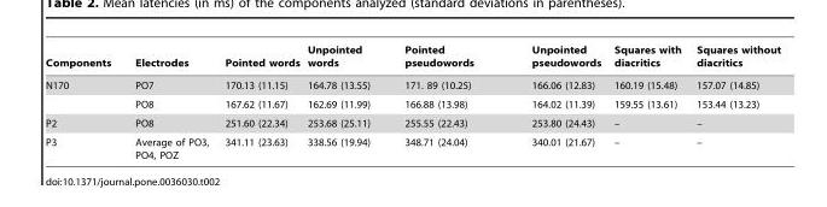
<table><thead><tr><td>Components</td><td>Electrodes</td><td>Pointed words</td><td>Unpointed words</td><td>Pointed pseudowords</td><td>Unpointed pseudowords</td><td>Squares with diacritics</td><td>Squares without diacritics</td></tr></thead><tbody><tr><td rowspan="2">N170</td><td>PO7</td><td>170.13 (11.15)</td><td>164.78 (13.55)</td><td>171. 89 (10.25)</td><td>166.06 (12.83)</td><td>160.19 (15.48)</td><td>157.07 (14.85)</td></tr><tr><td>PO8</td><td>167.62 (11.67)</td><td>162.69 (11.99)</td><td>166.88 (13.98)</td><td>164.02 (11.39)</td><td>159.55 (13.61)</td><td>153.44 (13.23)</td></tr><tr><td>P2</td><td>PO8</td><td>251.60 (22.34)</td><td>253.68 (25.11)</td><td>255.55 (22.43)</td><td>253.80 (24.43)</td><td>–</td><td>–</td></tr><tr><td>P3</td><td>Average of PO3, PO4, POZ</td><td>341.11 (23.63)</td><td>338.56 (19.94)</td><td>348.71 (24.04)</td><td>340.01 (21.67)</td><td>–</td><td>–</td></tr></tbody></table>